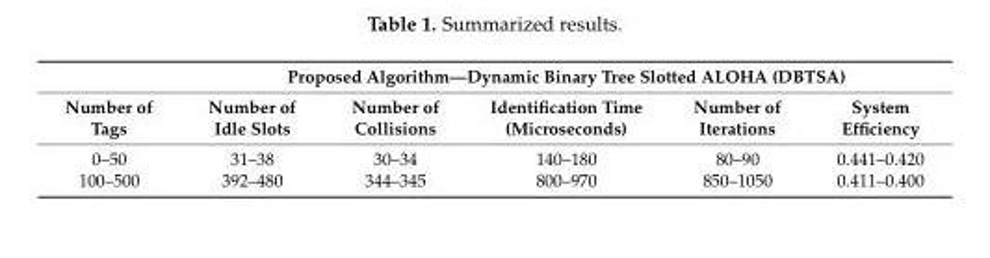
<table><thead><tr><td rowspan="2">Number of Tags</td><td colspan="5">Proposed Algorithm—Dynamic Binary Tree Slotted ALOHA (DBTSA)</td></tr><tr><td>Number of Idle Slots</td><td>Number of Collisions</td><td>Identification Time (Microseconds)</td><td>Number of Iterations</td><td>System Efficiency</td></tr></thead><tbody><tr><td>0–50</td><td>31–38</td><td>30–34</td><td>140–180</td><td>80–90</td><td>0.441–0.420</td></tr><tr><td>100–500</td><td>392–480</td><td>344–345</td><td>800–970</td><td>850–1050</td><td>0.411–0.400</td></tr></tbody></table>